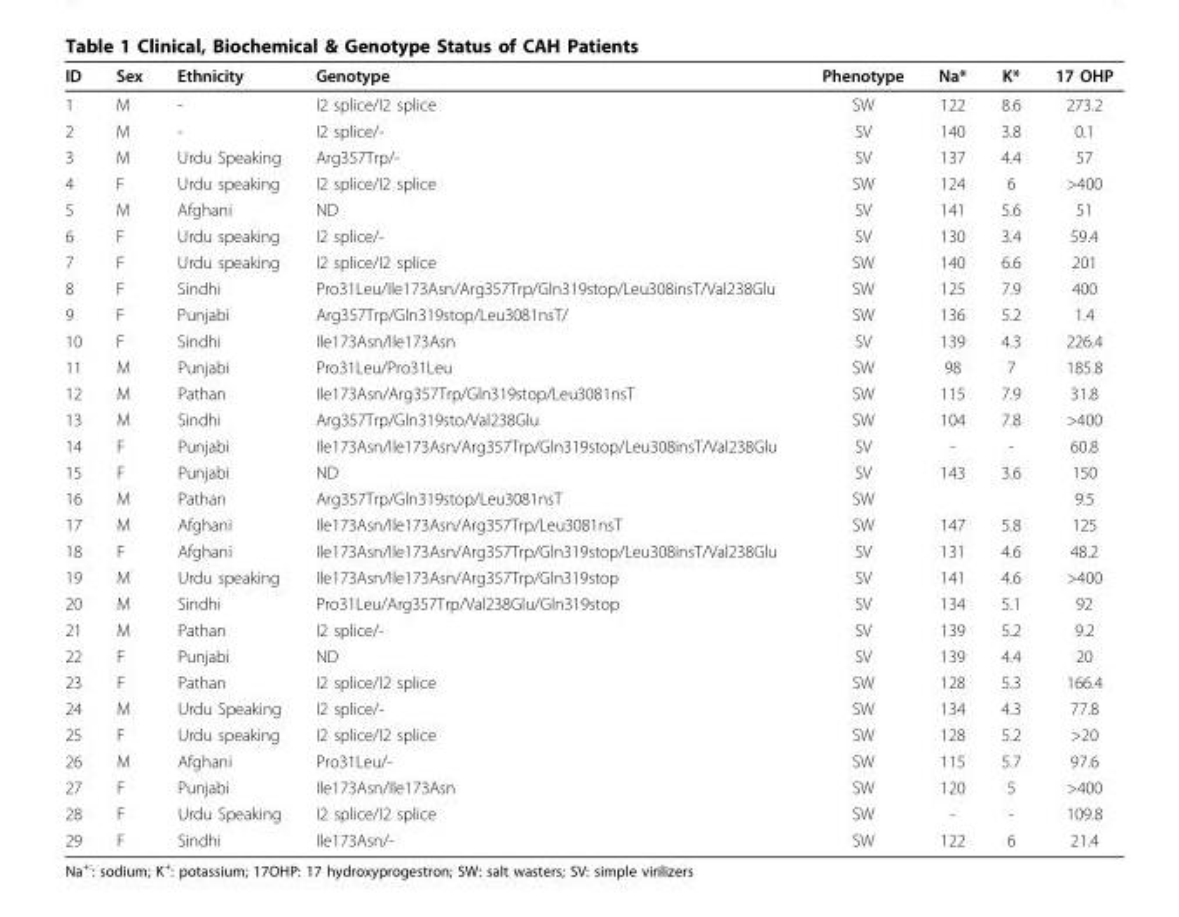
<table><thead><tr><td>ID</td><td>Sex</td><td>Ethnicity</td><td>Genotype</td><td>Phenotype</td><td>Na*</td><td>K*</td><td>17 OHP</td></tr></thead><tbody><tr><td>1</td><td>M</td><td>-</td><td>I2 splice/I2 splice</td><td>SW</td><td>122</td><td>8.6</td><td>273.2</td></tr><tr><td>2</td><td>M</td><td>-</td><td>I2 splice/-</td><td>SV</td><td>140</td><td>3.8</td><td>0.1</td></tr><tr><td>3</td><td>M</td><td>Urdu Speaking</td><td>Arg357Trp/-</td><td>SV</td><td>137</td><td>4.4</td><td>57</td></tr><tr><td>4</td><td>F</td><td>Urdu speaking</td><td>I2 splice/I2 splice</td><td>SW</td><td>124</td><td>6</td><td>&gt;400</td></tr><tr><td>5</td><td>M</td><td>Afghani</td><td>ND</td><td>SV</td><td>141</td><td>5.6</td><td>51</td></tr><tr><td>6</td><td>F</td><td>Urdu speaking</td><td>I2 splice/-</td><td>SV</td><td>130</td><td>3.4</td><td>59.4</td></tr><tr><td>7</td><td>F</td><td>Urdu speaking</td><td>I2 splice/I2 splice</td><td>SW</td><td>140</td><td>6.6</td><td>201</td></tr><tr><td>8</td><td>F</td><td>Sindhi</td><td>Pro31Leu/Ile173Asn/Arg357Trp/Gln319stop/Leu308insT/Val238Glu</td><td>SW</td><td>125</td><td>7.9</td><td>400</td></tr><tr><td>9</td><td>F</td><td>Punjabi</td><td>Arg357Trp/Gln319stop/Leu3081nsT/</td><td>SW</td><td>136</td><td>5.2</td><td>1.4</td></tr><tr><td>10</td><td>F</td><td>Sindhi</td><td>Ile173Asn/Ile173Asn</td><td>SV</td><td>139</td><td>4.3</td><td>226.4</td></tr><tr><td>11</td><td>M</td><td>Punjabi</td><td>Pro31Leu/Pro31Leu</td><td>SW</td><td>98</td><td>7</td><td>185.8</td></tr><tr><td>12</td><td>M</td><td>Pathan</td><td>Ile173Asn/Arg357Trp/Gln319stop/Leu3081nsT</td><td>SW</td><td>115</td><td>7.9</td><td>31.8</td></tr><tr><td>13</td><td>M</td><td>Sindhi</td><td>Arg357Trp/Gln319sto/Val238Glu</td><td>SW</td><td>104</td><td>7.8</td><td>&gt;400</td></tr><tr><td>14</td><td>F</td><td>Punjabi</td><td>Ile173Asn/Ile173Asn/Arg357Trp/Gln319stop/Leu308insT/Val238Glu</td><td>SV</td><td>-</td><td>-</td><td>60.8</td></tr><tr><td>15</td><td>F</td><td>Punjabi</td><td>ND</td><td>SV</td><td>143</td><td>3.6</td><td>150</td></tr><tr><td>16</td><td>M</td><td>Pathan</td><td>Arg357Trp/Gln319stop/Leu3081nsT</td><td>SW</td><td></td><td></td><td>9.5</td></tr><tr><td>17</td><td>M</td><td>Afghani</td><td>Ile173Asn/Ile173Asn/Arg357Trp/Leu3081nsT</td><td>SW</td><td>147</td><td>5.8</td><td>125</td></tr><tr><td>18</td><td>F</td><td>Afghani</td><td>Ile173Asn/Ile173Asn/Arg357Trp/Gln319stop/Leu308insT/Val238Glu</td><td>SV</td><td>131</td><td>4.6</td><td>48.2</td></tr><tr><td>19</td><td>M</td><td>Urdu speaking</td><td>Ile173Asn/Ile173Asn/Arg357Trp/Gln319stop</td><td>SV</td><td>141</td><td>4.6</td><td>&gt;400</td></tr><tr><td>20</td><td>M</td><td>Sindhi</td><td>Pro31Leu/Arg357Trp/Val238Glu/Gln319stop</td><td>SV</td><td>134</td><td>5.1</td><td>92</td></tr><tr><td>21</td><td>M</td><td>Pathan</td><td>I2 splice/-</td><td>SV</td><td>139</td><td>5.2</td><td>9.2</td></tr><tr><td>22</td><td>F</td><td>Punjabi</td><td>ND</td><td>SV</td><td>139</td><td>4.4</td><td>20</td></tr><tr><td>23</td><td>F</td><td>Pathan</td><td>I2 splice/I2 splice</td><td>SW</td><td>128</td><td>5.3</td><td>166.4</td></tr><tr><td>24</td><td>M</td><td>Urdu Speaking</td><td>I2 splice/-</td><td>SW</td><td>134</td><td>4.3</td><td>77.8</td></tr><tr><td>25</td><td>F</td><td>Urdu speaking</td><td>I2 splice/I2 splice</td><td>SW</td><td>128</td><td>5.2</td><td>&gt;20</td></tr><tr><td>26</td><td>M</td><td>Afghani</td><td>Pro31Leu/-</td><td>SW</td><td>115</td><td>5.7</td><td>97.6</td></tr><tr><td>27</td><td>F</td><td>Punjabi</td><td>Ile173Asn/Ile173Asn</td><td>SW</td><td>120</td><td>5</td><td>&gt;400</td></tr><tr><td>28</td><td>F</td><td>Urdu Speaking</td><td>I2 splice/I2 splice</td><td>SW</td><td>-</td><td>-</td><td>109.8</td></tr><tr><td>29</td><td>F</td><td>Sindhi</td><td>Ile173Asn/-</td><td>SW</td><td>122</td><td>6</td><td>21.4</td></tr></tbody></table>